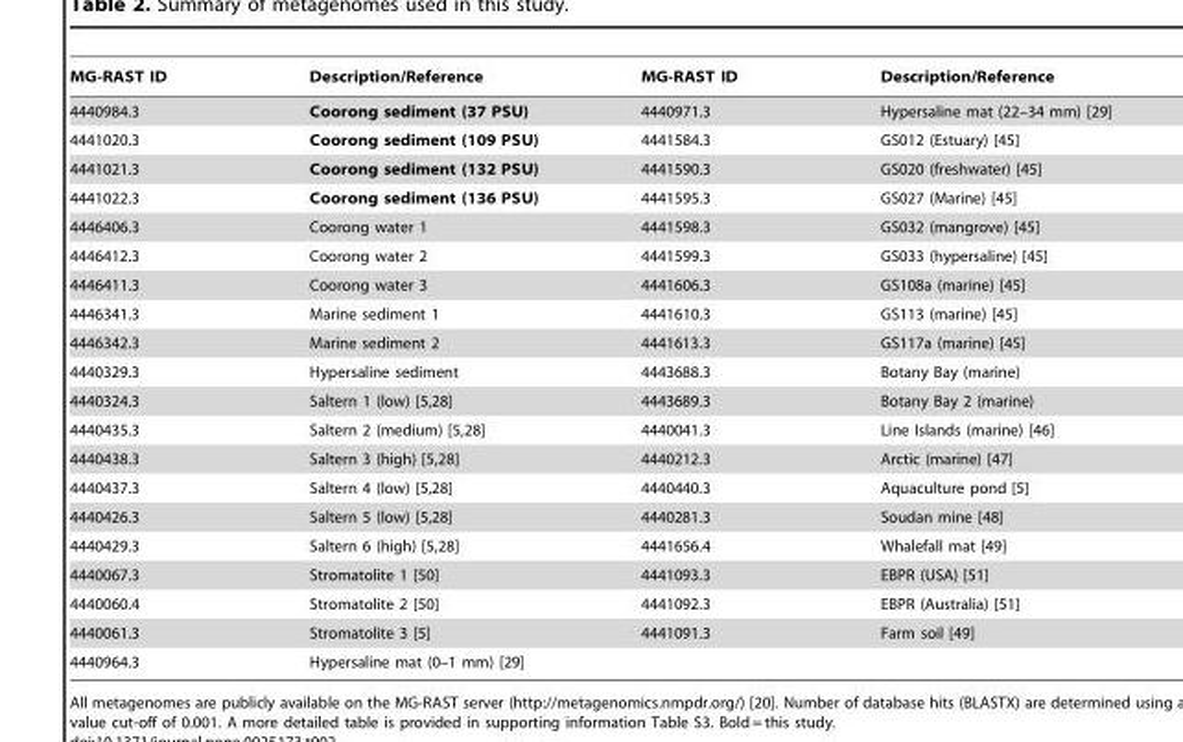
<table><thead><tr><td>MG-RAST ID</td><td>Description/Reference</td><td>MG-RAST ID</td><td>Description/Reference</td></tr></thead><tbody><tr><td>4440984.3</td><td>Coorong sediment (37 PSU)</td><td>4440971.3</td><td>Hypersaline mat (22–34 mm) [29]</td></tr><tr><td>4441020.3</td><td>Coorong sediment (109 PSU)</td><td>4441584.3</td><td>GS012 (Estuary) [45]</td></tr><tr><td>4441021.3</td><td>Coorong sediment (132 PSU)</td><td>4441590.3</td><td>GS020 (freshwater) [45]</td></tr><tr><td>4441022.3</td><td>Coorong sediment (136 PSU)</td><td>4441595.3</td><td>GS027 (Marine) [45]</td></tr><tr><td>4446406.3</td><td>Coorong water 1</td><td>4441598.3</td><td>GS032 (mangrove) [45]</td></tr><tr><td>4446412.3</td><td>Coorong water 2</td><td>4441599.3</td><td>GS033 (hypersaline) [45]</td></tr><tr><td>4446411.3</td><td>Coorong water 3</td><td>4441606.3</td><td>GS108a (marine) [45]</td></tr><tr><td>4446341.3</td><td>Marine sediment 1</td><td>4441610.3</td><td>GS113 (marine) [45]</td></tr><tr><td>4446342.3</td><td>Marine sediment 2</td><td>4441613.3</td><td>GS117a (marine) [45]</td></tr><tr><td>4440329.3</td><td>Hypersaline sediment</td><td>4443688.3</td><td>Botany Bay (marine)</td></tr><tr><td>4440324.3</td><td>Saltern 1 (low) [5,28]</td><td>4443689.3</td><td>Botany Bay 2 (marine)</td></tr><tr><td>4440435.3</td><td>Saltern 2 (medium) [5,28]</td><td>4440041.3</td><td>Line Islands (marine) [46]</td></tr><tr><td>4440438.3</td><td>Saltern 3 (high) [5,28]</td><td>4440212.3</td><td>Arctic (marine) [47]</td></tr><tr><td>4440437.3</td><td>Saltern 4 (low) [5,28]</td><td>4440440.3</td><td>Aquaculture pond [5]</td></tr><tr><td>4440426.3</td><td>Saltern 5 (low) [5,28]</td><td>4440281.3</td><td>Soudan mine [48]</td></tr><tr><td>4440429.3</td><td>Saltern 6 (high) [5,28]</td><td>4441656.4</td><td>Whalefall mat [49]</td></tr><tr><td>4440067.3</td><td>Stromatolite 1 [50]</td><td>4441093.3</td><td>EBPR (USA) [51]</td></tr><tr><td>4440060.4</td><td>Stromatolite 2 [50]</td><td>4441092.3</td><td>EBPR (Australia) [51]</td></tr><tr><td>4440061.3</td><td>Stromatolite 3 [5]</td><td>4441091.3</td><td>Farm soil [49]</td></tr><tr><td>4440964.3</td><td>Hypersaline mat (0–1 mm) [29]</td><td></td><td></td></tr></tbody></table>